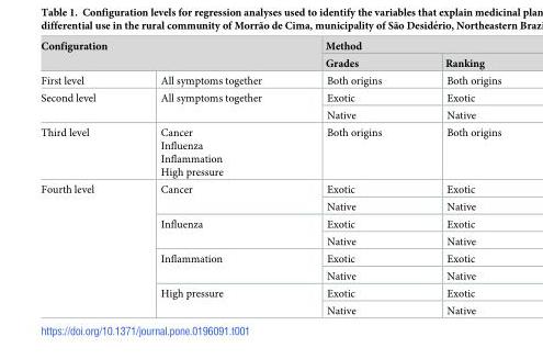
<table><thead><tr><td rowspan="2" colspan="2">Configuration</td><td colspan="2">Method</td></tr><tr><td rowspan="2">Grades Both origins</td><td rowspan="2">Ranking Both origins</td></tr><tr><td>First level</td><td>All symptoms together</td></tr></thead><tbody><tr><td rowspan="2">Second level</td><td rowspan="2">All symptoms together</td><td>Exotic</td><td>Exotic</td></tr><tr><td>Native</td><td>Native</td></tr><tr><td>Third level</td><td>Cancer Influenza Inflammation High pressure</td><td>Both origins</td><td>Both origins</td></tr><tr><td rowspan="8">Fourth level</td><td rowspan="2">Cancer</td><td>Exotic</td><td>Exotic</td></tr><tr><td>Native</td><td>Native</td></tr><tr><td rowspan="2">Influenza</td><td>Exotic</td><td>Exotic</td></tr><tr><td>Native</td><td>Native</td></tr><tr><td rowspan="2">Inflammation</td><td>Exotic</td><td>Exotic</td></tr><tr><td>Native</td><td>Native</td></tr><tr><td rowspan="2">High pressure</td><td>Exotic</td><td>Exotic</td></tr><tr><td>Native</td><td>Native</td></tr></tbody></table>